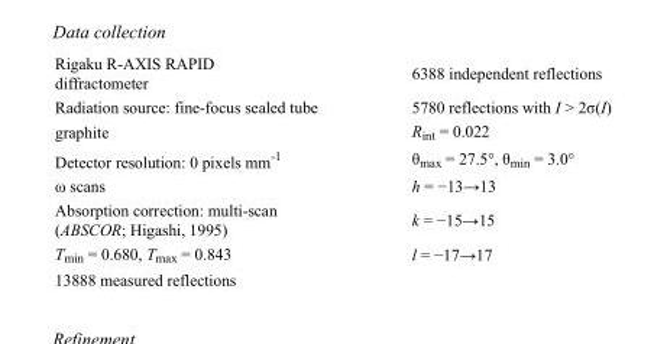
<table><tbody><tr><td>Rigaku R-AXIS RAPID diffractometer</td><td>6388 independent reflections</td></tr><tr><td>Radiation source: fine-focus sealed tube</td><td>5780 reflections with I &gt; 2σ(I)</td></tr><tr><td>graphite</td><td>R<sub>int</sub> = 0.022</td></tr><tr><td>Detector resolution: 0 pixels mm<sup>-1</sup></td><td>θ<sub>max</sub> = 27.5°, θ<sub>min</sub> = 3.0°</td></tr><tr><td>ω scans</td><td>h = −13→13</td></tr><tr><td>Absorption correction: multi-scan (ABSCOR; Higashi, 1995)</td><td>k = −15→15</td></tr><tr><td>T<sub>min</sub> = 0.680, T<sub>max</sub> = 0.843</td><td>l = −17→17</td></tr><tr><td>13888 measured reflections</td><td></td></tr></tbody></table>